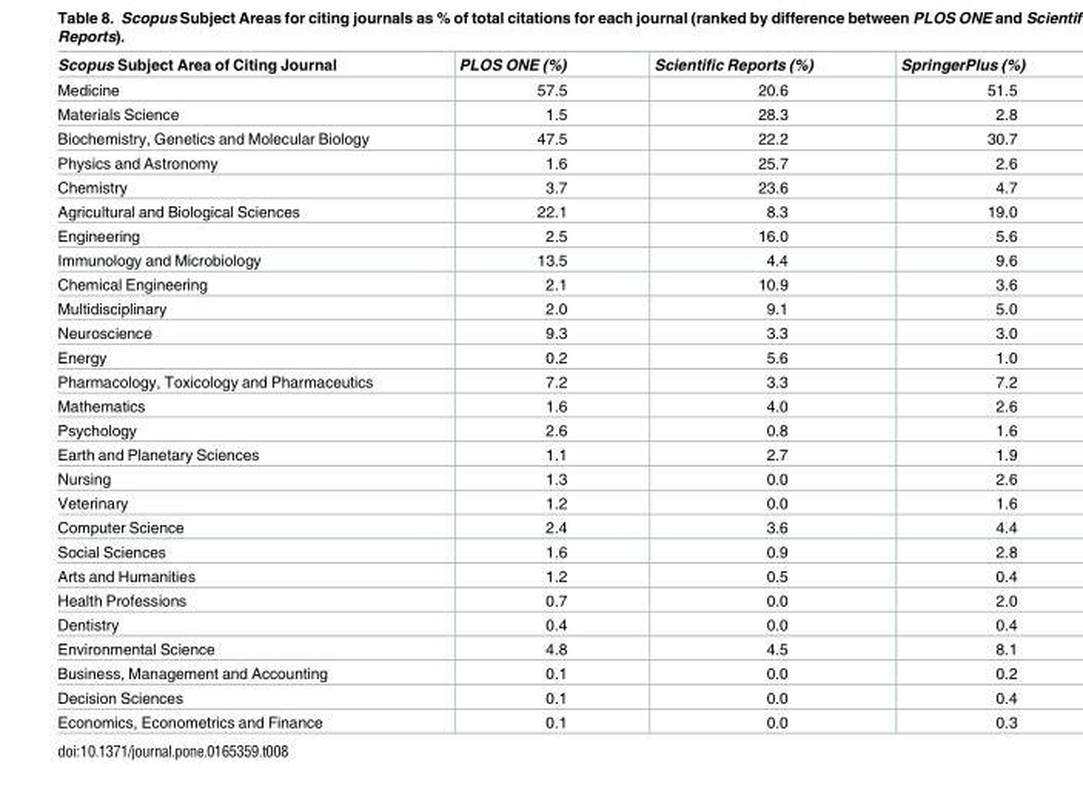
<table><thead><tr><td>Scopus Subject Area of Citing Journal</td><td>PLOS ONE (%)</td><td>Scientific Reports (%)</td><td>SpringerPlus (%)</td></tr></thead><tbody><tr><td>Medicine</td><td>57.5</td><td>20.6</td><td>51.5</td></tr><tr><td>Materials Science</td><td>1.5</td><td>28.3</td><td>2.8</td></tr><tr><td>Biochemistry, Genetics and Molecular Biology</td><td>47.5</td><td>22.2</td><td>30.7</td></tr><tr><td>Physics and Astronomy</td><td>1.6</td><td>25.7</td><td>2.6</td></tr><tr><td>Chemistry</td><td>3.7</td><td>23.6</td><td>4.7</td></tr><tr><td>Agricultural and Biological Sciences</td><td>22.1</td><td>8.3</td><td>19.0</td></tr><tr><td>Engineering</td><td>2.5</td><td>16.0</td><td>5.6</td></tr><tr><td>Immunology and Microbiology</td><td>13.5</td><td>4.4</td><td>9.6</td></tr><tr><td>Chemical Engineering</td><td>2.1</td><td>10.9</td><td>3.6</td></tr><tr><td>Multidisciplinary</td><td>2.0</td><td>9.1</td><td>5.0</td></tr><tr><td>Neuroscience</td><td>9.3</td><td>3.3</td><td>3.0</td></tr><tr><td>Energy</td><td>0.2</td><td>5.6</td><td>1.0</td></tr><tr><td>Pharmacology, Toxicology and Pharmaceutics</td><td>7.2</td><td>3.3</td><td>7.2</td></tr><tr><td>Mathematics</td><td>1.6</td><td>4.0</td><td>2.6</td></tr><tr><td>Psychology</td><td>2.6</td><td>0.8</td><td>1.6</td></tr><tr><td>Earth and Planetary Sciences</td><td>1.1</td><td>2.7</td><td>1.9</td></tr><tr><td>Nursing</td><td>1.3</td><td>0.0</td><td>2.6</td></tr><tr><td>Veterinary</td><td>1.2</td><td>0.0</td><td>1.6</td></tr><tr><td>Computer Science</td><td>2.4</td><td>3.6</td><td>4.4</td></tr><tr><td>Social Sciences</td><td>1.6</td><td>0.9</td><td>2.8</td></tr><tr><td>Arts and Humanities</td><td>1.2</td><td>0.5</td><td>0.4</td></tr><tr><td>Health Professions</td><td>0.7</td><td>0.0</td><td>2.0</td></tr><tr><td>Dentistry</td><td>0.4</td><td>0.0</td><td>0.4</td></tr><tr><td>Environmental Science</td><td>4.8</td><td>4.5</td><td>8.1</td></tr><tr><td>Business, Management and Accounting</td><td>0.1</td><td>0.0</td><td>0.2</td></tr><tr><td>Decision Sciences</td><td>0.1</td><td>0.0</td><td>0.4</td></tr><tr><td>Economics, Econometrics and Finance</td><td>0.1</td><td>0.0</td><td>0.3</td></tr></tbody></table>